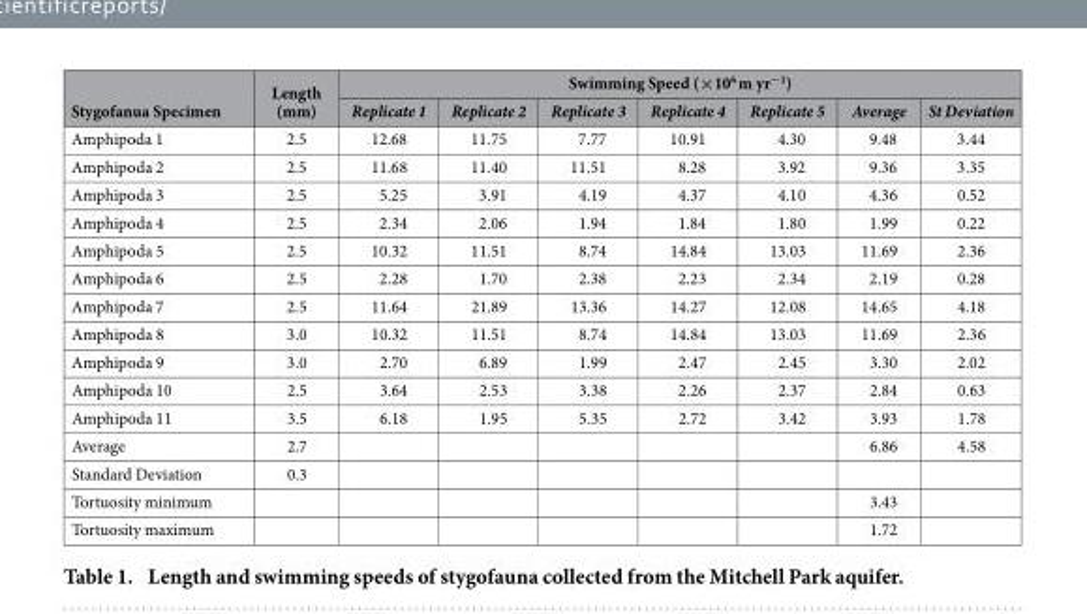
<table><thead><tr><td rowspan="2">Stygofanua Specimen</td><td rowspan="2">Length (mm)</td><td colspan="7">Swimming Speed (×10<sup>6</sup> m yr<sup>−1</sup>)</td></tr><tr><td>Replicate 1</td><td>Replicate 2</td><td>Replicate 3</td><td>Replicate 4</td><td>Replicate 5</td><td>Average</td><td>St Deviation</td></tr></thead><tbody><tr><td>Amphipoda 1</td><td>2.5</td><td>12.68</td><td>11.75</td><td>7.77</td><td>10.91</td><td>4.30</td><td>9.48</td><td>3.44</td></tr><tr><td>Amphipoda 2</td><td>2.5</td><td>11.68</td><td>11.40</td><td>11.51</td><td>8.28</td><td>3.92</td><td>9.36</td><td>3.35</td></tr><tr><td>Amphipoda 3</td><td>2.5</td><td>5.25</td><td>3.91</td><td>4.19</td><td>4.37</td><td>4.10</td><td>4.36</td><td>0.52</td></tr><tr><td>Amphipoda 4</td><td>2.5</td><td>2.34</td><td>2.06</td><td>1.94</td><td>1.84</td><td>1.80</td><td>1.99</td><td>0.22</td></tr><tr><td>Amphipoda 5</td><td>2.5</td><td>10.32</td><td>11.51</td><td>8.74</td><td>14.84</td><td>13.03</td><td>11.69</td><td>2.36</td></tr><tr><td>Amphipoda 6</td><td>2.5</td><td>2.28</td><td>1.70</td><td>2.38</td><td>2.23</td><td>2.34</td><td>2.19</td><td>0.28</td></tr><tr><td>Amphipoda 7</td><td>2.5</td><td>11.64</td><td>21.89</td><td>13.36</td><td>14.27</td><td>12.08</td><td>14.65</td><td>4.18</td></tr><tr><td>Amphipoda 8</td><td>3.0</td><td>10.32</td><td>11.51</td><td>8.74</td><td>14.84</td><td>13.03</td><td>11.69</td><td>2.36</td></tr><tr><td>Amphipoda 9</td><td>3.0</td><td>2.70</td><td>6.89</td><td>1.99</td><td>2.47</td><td>2.45</td><td>3.30</td><td>2.02</td></tr><tr><td>Amphipoda 10</td><td>2.5</td><td>3.64</td><td>2.53</td><td>3.38</td><td>2.26</td><td>2.37</td><td>2.84</td><td>0.63</td></tr><tr><td>Amphipoda 11</td><td>3.5</td><td>6.18</td><td>1.95</td><td>5.35</td><td>2.72</td><td>3.42</td><td>3.93</td><td>1.78</td></tr><tr><td>Average</td><td>2.7</td><td></td><td></td><td></td><td></td><td></td><td>6.86</td><td>4.58</td></tr><tr><td>Standard Deviation</td><td>0.3</td><td></td><td></td><td></td><td></td><td></td><td></td><td></td></tr><tr><td>Tortuosity minimum</td><td></td><td></td><td></td><td></td><td></td><td></td><td>3.43</td><td></td></tr><tr><td>Tortuosity maximum</td><td></td><td></td><td></td><td></td><td></td><td></td><td>1.72</td><td></td></tr></tbody></table>